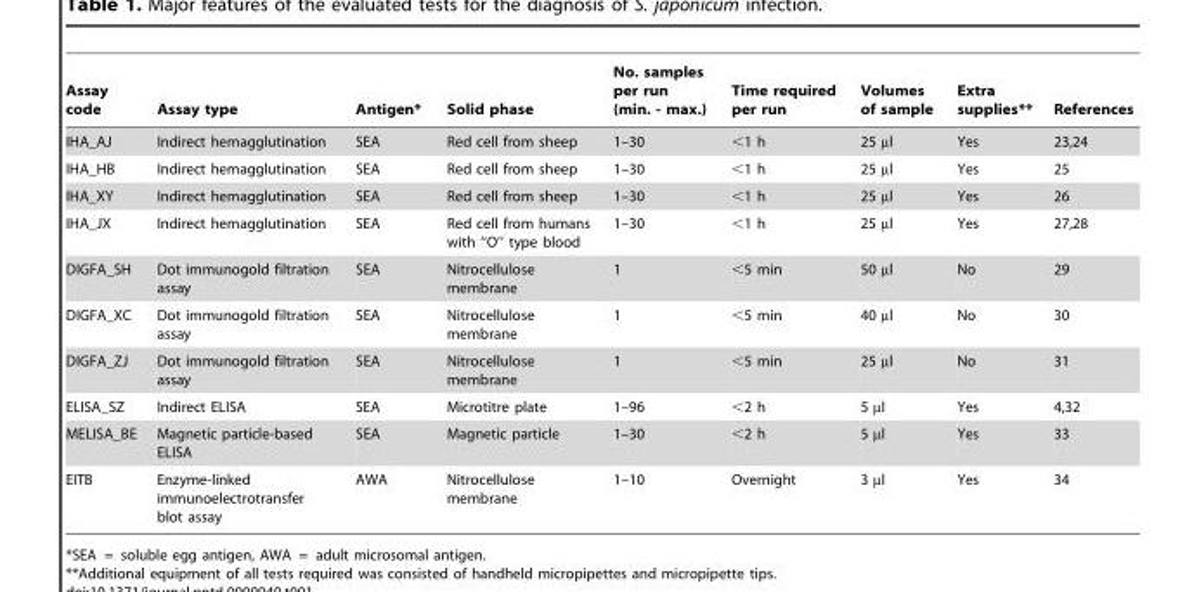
<table><thead><tr><td>Assay code</td><td>Assay type</td><td>Antigen*</td><td>Solid phase</td><td>No. samples per run (min. - max.)</td><td>Time required per run</td><td>Volumes of sample</td><td>Extra supplies**</td><td>References</td></tr></thead><tbody><tr><td>IHA_AJ</td><td>Indirect hemagglutination</td><td>SEA</td><td>Red cell from sheep</td><td>1–30</td><td>&lt;1 h</td><td>25 µl</td><td>Yes</td><td>23,24</td></tr><tr><td>IHA_HB</td><td>Indirect hemagglutination</td><td>SEA</td><td>Red cell from sheep</td><td>1–30</td><td>&lt;1 h</td><td>25 µl</td><td>Yes</td><td>25</td></tr><tr><td>IHA_XY</td><td>Indirect hemagglutination</td><td>SEA</td><td>Red cell from sheep</td><td>1–30</td><td>&lt;1 h</td><td>25 µl</td><td>Yes</td><td>26</td></tr><tr><td>IHA_JX</td><td>Indirect hemagglutination</td><td>SEA</td><td>Red cell from humans with ‘‘O’’ type blood</td><td>1–30</td><td>&lt;1 h</td><td>25 µl</td><td>Yes</td><td>27,28</td></tr><tr><td>DIGFA_SH</td><td>Dot immunogold filtration assay</td><td>SEA</td><td>Nitrocellulose membrane</td><td>1</td><td>&lt;5 min</td><td>50 µl</td><td>No</td><td>29</td></tr><tr><td>DIGFA_XC</td><td>Dot immunogold filtration assay</td><td>SEA</td><td>Nitrocellulose membrane</td><td>1</td><td>&lt;5 min</td><td>40 µl</td><td>No</td><td>30</td></tr><tr><td>DIGFA_ZJ</td><td>Dot immunogold filtration assay</td><td>SEA</td><td>Nitrocellulose membrane</td><td>1</td><td>&lt;5 min</td><td>25 µl</td><td>No</td><td>31</td></tr><tr><td>ELISA_SZ</td><td>Indirect ELISA</td><td>SEA</td><td>Microtitre plate</td><td>1–96</td><td>&lt;2 h</td><td>5 µl</td><td>Yes</td><td>4,32</td></tr><tr><td>MELISA_BE</td><td>Magnetic particle-based ELISA</td><td>SEA</td><td>Magnetic particle</td><td>1–30</td><td>&lt;2 h</td><td>5 µl</td><td>Yes</td><td>33</td></tr><tr><td>EITB</td><td>Enzyme-linked immunoelectrotransfer blot assay</td><td>AWA</td><td>Nitrocellulose membrane</td><td>1–10</td><td>Overnight</td><td>3 µl</td><td>Yes</td><td>34</td></tr></tbody></table>